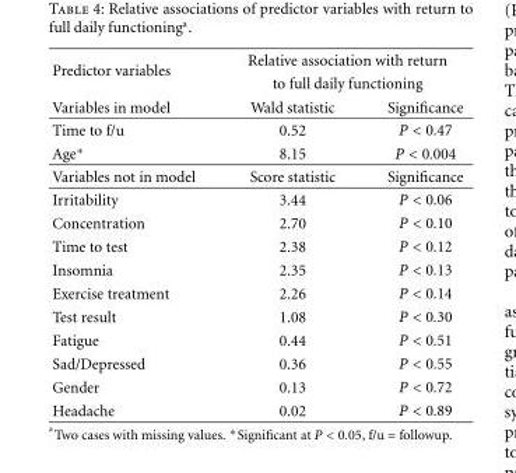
<table><thead><tr><td rowspan="2">Predictor variables Variables in model</td><td colspan="2">Relative association with return to full daily functioning</td></tr><tr><td>Wald statistic</td><td>Significance</td></tr></thead><tbody><tr><td>Time to f/u</td><td>0.52</td><td>P &lt; 0.47</td></tr><tr><td>Age∗</td><td>8.15</td><td>P &lt; 0.004</td></tr><tr><td>Variables not in model</td><td>Score statistic</td><td>Significance</td></tr><tr><td>Irritability</td><td>3.44</td><td>P &lt; 0.06</td></tr><tr><td>Concentration</td><td>2.70</td><td>P &lt; 0.10</td></tr><tr><td>Time to test</td><td>2.38</td><td>P &lt; 0.12</td></tr><tr><td>Insomnia</td><td>2.35</td><td>P &lt; 0.13</td></tr><tr><td>Exercise treatment</td><td>2.26</td><td>P &lt; 0.14</td></tr><tr><td>Test result</td><td>1.08</td><td>P &lt; 0.30</td></tr><tr><td>Fatigue</td><td>0.44</td><td>P &lt; 0.51</td></tr><tr><td>Sad/Depressed</td><td>0.36</td><td>P &lt; 0.55</td></tr><tr><td>Gender</td><td>0.13</td><td>P &lt; 0.72</td></tr><tr><td>Headache</td><td>0.02</td><td>P &lt; 0.89</td></tr></tbody></table>